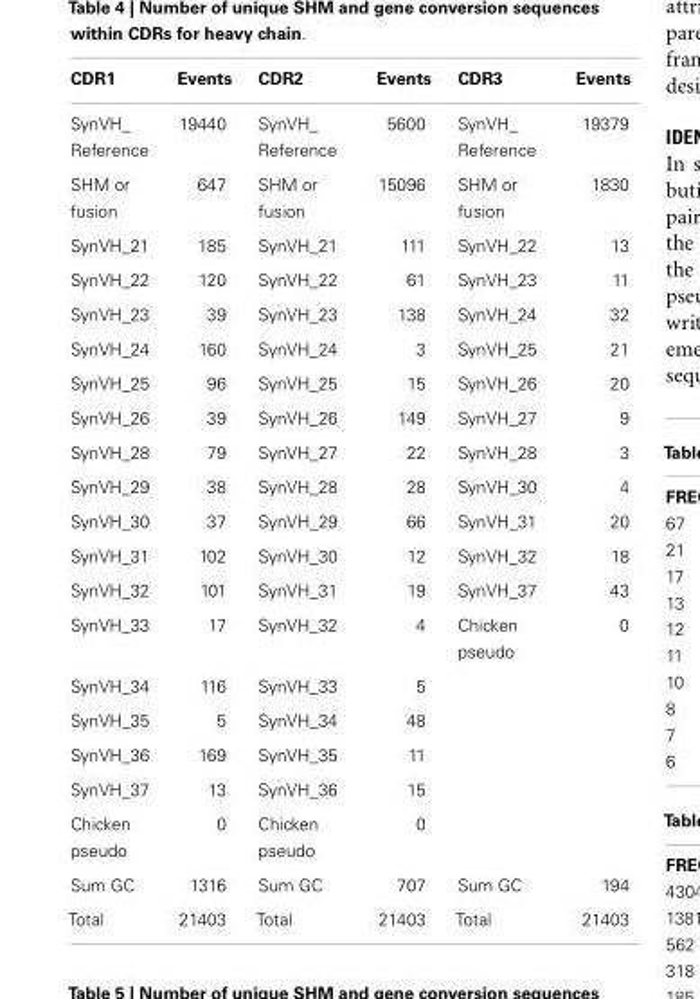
<table><thead><tr><td>CDR1</td><td>Events</td><td>CDR2</td><td>Events</td><td>CDR3</td><td>Events</td></tr></thead><tbody><tr><td>SynVH_ Reference</td><td>19440</td><td>SynVH_ Reference</td><td>5600</td><td>SynVH_ Reference</td><td>19379</td></tr><tr><td>SHM or fusion</td><td>647</td><td>SHM or fusion</td><td>15096</td><td>SHM or fusion</td><td>1830</td></tr><tr><td>SynVH_21</td><td>185</td><td>SynVH_21</td><td>111</td><td>SynVH_22</td><td>13</td></tr><tr><td>SynVH_22</td><td>120</td><td>SynVH_22</td><td>61</td><td>SynVH_23</td><td>11</td></tr><tr><td>SynVH_23</td><td>39</td><td>SynVH_23</td><td>138</td><td>SynVH_24</td><td>32</td></tr><tr><td>SynVH_24</td><td>160</td><td>SynVH_24</td><td>3</td><td>SynVH_25</td><td>21</td></tr><tr><td>SynVH_25</td><td>96</td><td>SynVH_25</td><td>15</td><td>SynVH_26</td><td>20</td></tr><tr><td>SynVH_26</td><td>39</td><td>SynVH_26</td><td>149</td><td>SynVH_27</td><td>9</td></tr><tr><td>SynVH_28</td><td>79</td><td>SynVH_27</td><td>22</td><td>SynVH_28</td><td>3</td></tr><tr><td>SynVH_29</td><td>38</td><td>SynVH_28</td><td>28</td><td>SynVH_30</td><td>4</td></tr><tr><td>SynVH_30</td><td>37</td><td>SynVH_29</td><td>66</td><td>SynVH_31</td><td>20</td></tr><tr><td>SynVH_31</td><td>102</td><td>SynVH_30</td><td>12</td><td>SynVH_32</td><td>18</td></tr><tr><td>SynVH_32</td><td>101</td><td>SynVH_31</td><td>19</td><td>SynVH_37</td><td>43</td></tr><tr><td>SynVH_33</td><td>17</td><td>SynVH_32</td><td>4</td><td>Chicken pseudo</td><td>0</td></tr><tr><td>SynVH_34</td><td>116</td><td>SynVH_33</td><td>5</td><td></td><td></td></tr><tr><td>SynVH_35</td><td>5</td><td>SynVH_34</td><td>48</td><td></td><td></td></tr><tr><td>SynVH_36</td><td>169</td><td>SynVH_35</td><td>11</td><td></td><td></td></tr><tr><td>SynVH_37</td><td>13</td><td>SynVH_36</td><td>15</td><td></td><td></td></tr><tr><td>Chicken pseudo</td><td>0</td><td>Chicken pseudo</td><td>0</td><td></td><td></td></tr><tr><td>Sum GC</td><td>1316</td><td>Sum GC</td><td>707</td><td>Sum GC</td><td>194</td></tr><tr><td>Total</td><td>21403</td><td>Total</td><td>21403</td><td>Total</td><td>21403</td></tr></tbody></table>